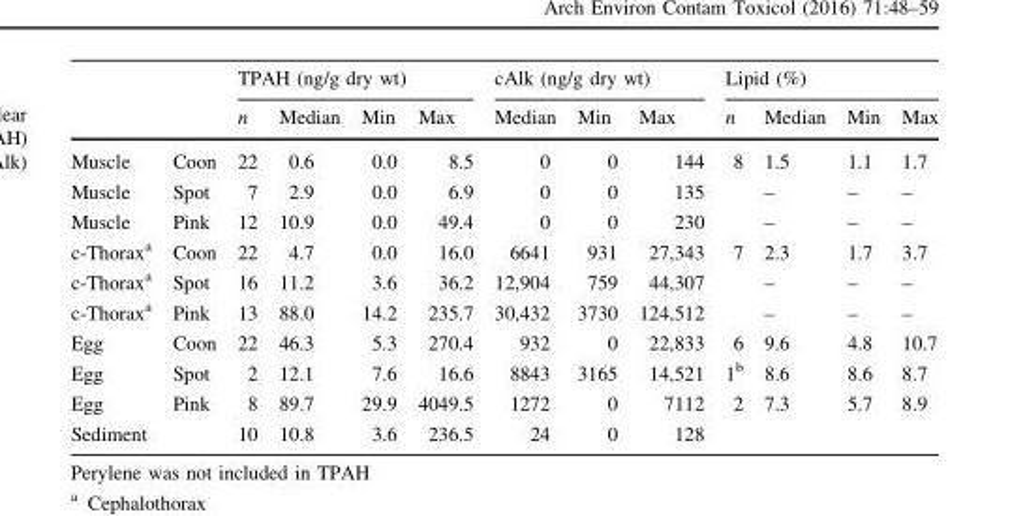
<table><thead><tr><td rowspan="2"></td><td rowspan="2"></td><td colspan="4">TPAH (ng/g dry wt)</td><td colspan="3">cAlk (ng/g dry wt)</td><td colspan="4">Lipid (%)</td></tr><tr><td>n</td><td>Median</td><td>Min</td><td>Max</td><td>Median</td><td>Min</td><td>Max</td><td>n</td><td>Median</td><td>Min</td><td>Max</td></tr></thead><tbody><tr><td>Muscle</td><td>Coon</td><td>22</td><td>0.6</td><td>0.0</td><td>8.5</td><td>0</td><td>0</td><td>144</td><td>8</td><td>1.5</td><td>1.1</td><td>1.7</td></tr><tr><td>Muscle</td><td>Spot</td><td>7</td><td>2.9</td><td>0.0</td><td>6.9</td><td>0</td><td>0</td><td>135</td><td></td><td>–</td><td>–</td><td>–</td></tr><tr><td>Muscle</td><td>Pink</td><td>12</td><td>10.9</td><td>0.0</td><td>49.4</td><td>0</td><td>0</td><td>230</td><td></td><td>–</td><td>–</td><td>–</td></tr><tr><td>c-Thorax<sup>a</sup></td><td>Coon</td><td>22</td><td>4.7</td><td>0.0</td><td>16.0</td><td>6641</td><td>931</td><td>27,343</td><td>7</td><td>2.3</td><td>1.7</td><td>3.7</td></tr><tr><td>c-Thorax<sup>a</sup></td><td>Spot</td><td>16</td><td>11.2</td><td>3.6</td><td>36.2</td><td>12,904</td><td>759</td><td>44,307</td><td></td><td>–</td><td>–</td><td>–</td></tr><tr><td>c-Thorax<sup>a</sup></td><td>Pink</td><td>13</td><td>88.0</td><td>14.2</td><td>235.7</td><td>30,432</td><td>3730</td><td>124,512</td><td></td><td>–</td><td>–</td><td>–</td></tr><tr><td>Egg</td><td>Coon</td><td>22</td><td>46.3</td><td>5.3</td><td>270.4</td><td>932</td><td>0</td><td>22,833</td><td>6</td><td>9.6</td><td>4.8</td><td>10.7</td></tr><tr><td>Egg</td><td>Spot</td><td>2</td><td>12.1</td><td>7.6</td><td>16.6</td><td>8843</td><td>3165</td><td>14,521</td><td>1<sup>b</sup></td><td>8.6</td><td>8.6</td><td>8.7</td></tr><tr><td>Egg</td><td>Pink</td><td>8</td><td>89.7</td><td>29.9</td><td>4049.5</td><td>1272</td><td>0</td><td>7112</td><td>2</td><td>7.3</td><td>5.7</td><td>8.9</td></tr><tr><td>Sediment</td><td></td><td>10</td><td>10.8</td><td>3.6</td><td>236.5</td><td>24</td><td>0</td><td>128</td><td></td><td></td><td></td><td></td></tr></tbody></table>